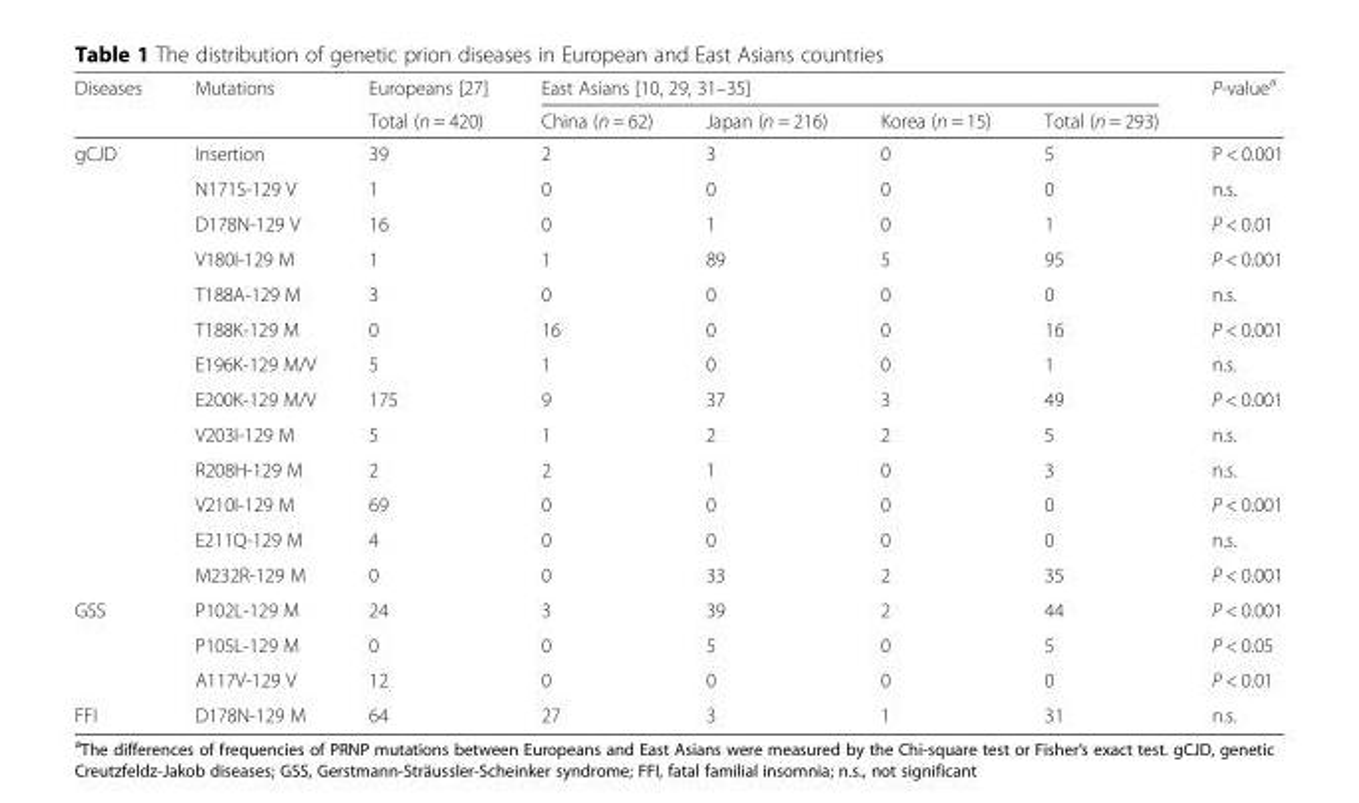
<table><thead><tr><td rowspan="2">Diseases</td><td rowspan="2">Mutations</td><td rowspan="2">Europeans [27] Total (n = 420)</td><td colspan="4">East Asians [10, 29, 31–35]</td><td rowspan="2">P-value<sup>a</sup></td></tr><tr><td>China (n = 62)</td><td>Japan (n = 216)</td><td>Korea (n = 15)</td><td>Total (n = 293)</td></tr></thead><tbody><tr><td rowspan="13">gCJD</td><td>Insertion</td><td>39</td><td>2</td><td>3</td><td>0</td><td>5</td><td>P &lt; 0.001</td></tr><tr><td>N171S-129 V</td><td>1</td><td>0</td><td>0</td><td>0</td><td>0</td><td>n.s.</td></tr><tr><td>D178N-129 V</td><td>16</td><td>0</td><td>1</td><td>0</td><td>1</td><td>P &lt; 0.01</td></tr><tr><td>V180I-129 M</td><td>1</td><td>1</td><td>89</td><td>5</td><td>95</td><td>P &lt; 0.001</td></tr><tr><td>T188A-129 M</td><td>3</td><td>0</td><td>0</td><td>0</td><td>0</td><td>n.s.</td></tr><tr><td>T188K-129 M</td><td>0</td><td>16</td><td>0</td><td>0</td><td>16</td><td>P &lt; 0.001</td></tr><tr><td>E196K-129 M/V</td><td>5</td><td>1</td><td>0</td><td>0</td><td>1</td><td>n.s.</td></tr><tr><td>E200K-129 M/V</td><td>175</td><td>9</td><td>37</td><td>3</td><td>49</td><td>P &lt; 0.001</td></tr><tr><td>V203I-129 M</td><td>5</td><td>1</td><td>2</td><td>2</td><td>5</td><td>n.s.</td></tr><tr><td>R208H-129 M</td><td>2</td><td>2</td><td>1</td><td>0</td><td>3</td><td>n.s.</td></tr><tr><td>V210I-129 M</td><td>69</td><td>0</td><td>0</td><td>0</td><td>0</td><td>P &lt; 0.001</td></tr><tr><td>E211Q-129 M</td><td>4</td><td>0</td><td>0</td><td>0</td><td>0</td><td>n.s.</td></tr><tr><td>M232R-129 M</td><td>0</td><td>0</td><td>33</td><td>2</td><td>35</td><td>P &lt; 0.001</td></tr><tr><td rowspan="3">GSS</td><td>P102L-129 M</td><td>24</td><td>3</td><td>39</td><td>2</td><td>44</td><td>P &lt; 0.001</td></tr><tr><td>P105L-129 M</td><td>0</td><td>0</td><td>5</td><td>0</td><td>5</td><td>P &lt; 0.05</td></tr><tr><td>A117V-129 V</td><td>12</td><td>0</td><td>0</td><td>0</td><td>0</td><td>P &lt; 0.01</td></tr><tr><td>FFI</td><td>D178N-129 M</td><td>64</td><td>27</td><td>3</td><td>1</td><td>31</td><td>n.s.</td></tr></tbody></table>